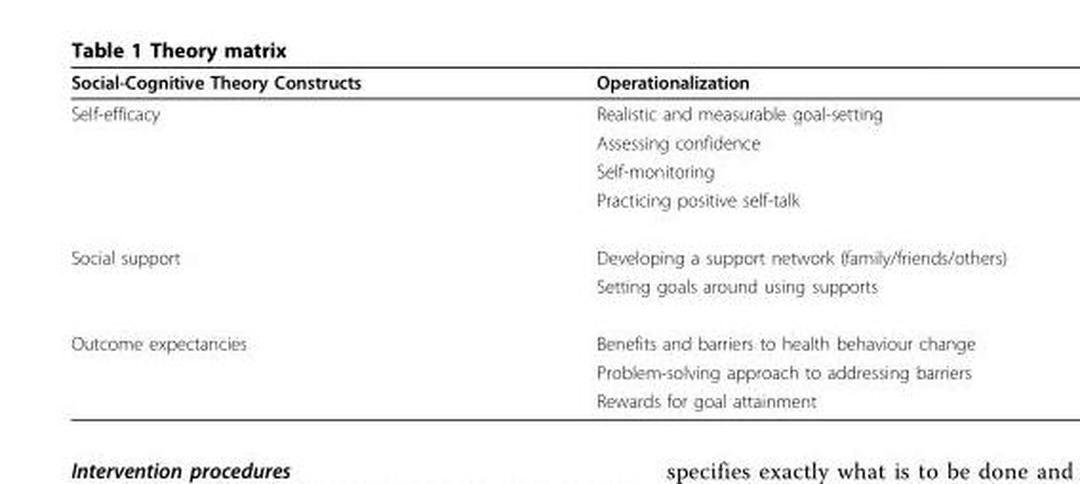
<table><thead><tr><td>Social-Cognitive Theory Constructs</td><td>Operationalization</td></tr></thead><tbody><tr><td rowspan="4">Self-efficacy</td><td>Realistic and measurable goal-setting</td></tr><tr><td>Assessing confidence</td></tr><tr><td>Self-monitoring</td></tr><tr><td>Practicing positive self-talk</td></tr><tr><td rowspan="2">Social support</td><td>Developing a support network (family/friends/others)</td></tr><tr><td>Setting goals around using supports</td></tr><tr><td rowspan="3">Outcome expectancies</td><td>Benefits and barriers to health behaviour change</td></tr><tr><td>Problem-solving approach to addressing barriers</td></tr><tr><td>Rewards for goal attainment</td></tr></tbody></table>